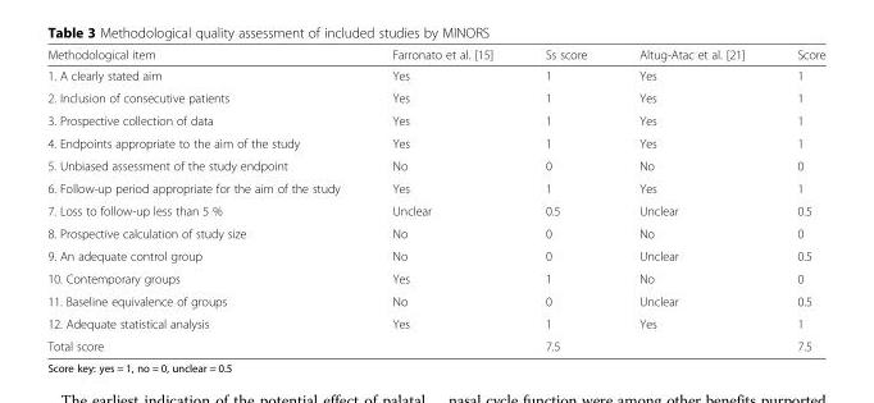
<table><thead><tr><td>Methodological item</td><td>Farronato et al. [15]</td><td>Ss score</td><td>Altug-Atac et al. [21]</td><td>Score</td></tr></thead><tbody><tr><td>1. A clearly stated aim</td><td>Yes</td><td>1</td><td>Yes</td><td>1</td></tr><tr><td>2. Inclusion of consecutive patients</td><td>Yes</td><td>1</td><td>Yes</td><td>1</td></tr><tr><td>3. Prospective collection of data</td><td>Yes</td><td>1</td><td>Yes</td><td>1</td></tr><tr><td>4. Endpoints appropriate to the aim of the study</td><td>Yes</td><td>1</td><td>Yes</td><td>1</td></tr><tr><td>5. Unbiased assessment of the study endpoint</td><td>No</td><td>0</td><td>No</td><td>0</td></tr><tr><td>6. Follow-up period appropriate for the aim of the study</td><td>Yes</td><td>1</td><td>Yes</td><td>1</td></tr><tr><td>7. Loss to follow-up less than 5 %</td><td>Unclear</td><td>0.5</td><td>Unclear</td><td>0.5</td></tr><tr><td>8. Prospective calculation of study size</td><td>No</td><td>0</td><td>No</td><td>0</td></tr><tr><td>9. An adequate control group</td><td>No</td><td>0</td><td>Unclear</td><td>0.5</td></tr><tr><td>10. Contemporary groups</td><td>Yes</td><td>1</td><td>No</td><td>0</td></tr><tr><td>11. Baseline equivalence of groups</td><td>No</td><td>0</td><td>Unclear</td><td>0.5</td></tr><tr><td>12. Adequate statistical analysis</td><td>Yes</td><td>1</td><td>Yes</td><td>1</td></tr><tr><td>Total score</td><td></td><td>7.5</td><td></td><td>7.5</td></tr></tbody></table>